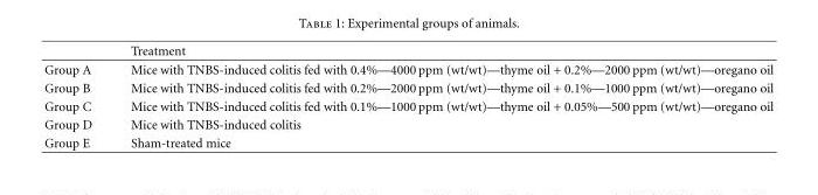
<table><thead><tr><td></td><td>Treatment</td></tr></thead><tbody><tr><td>Group A</td><td>Mice with TNBS-induced colitis fed with 0.4%—4000 ppm (wt/wt)—thyme oil + 0.2%—2000 ppm (wt/wt)—oregano oil</td></tr><tr><td>Group B</td><td>Mice with TNBS-induced colitis fed with 0.2%—2000 ppm (wt/wt)—thyme oil + 0.1%—1000 ppm (wt/wt)—oregano oil</td></tr><tr><td>Group C</td><td>Mice with TNBS-induced colitis fed with 0.1%—1000 ppm (wt/wt)—thyme oil + 0.05%—500 ppm (wt/wt)—oregano oil</td></tr><tr><td>Group D</td><td>Mice with TNBS-induced colitis</td></tr><tr><td>Group E</td><td>Sham-treated mice</td></tr></tbody></table>